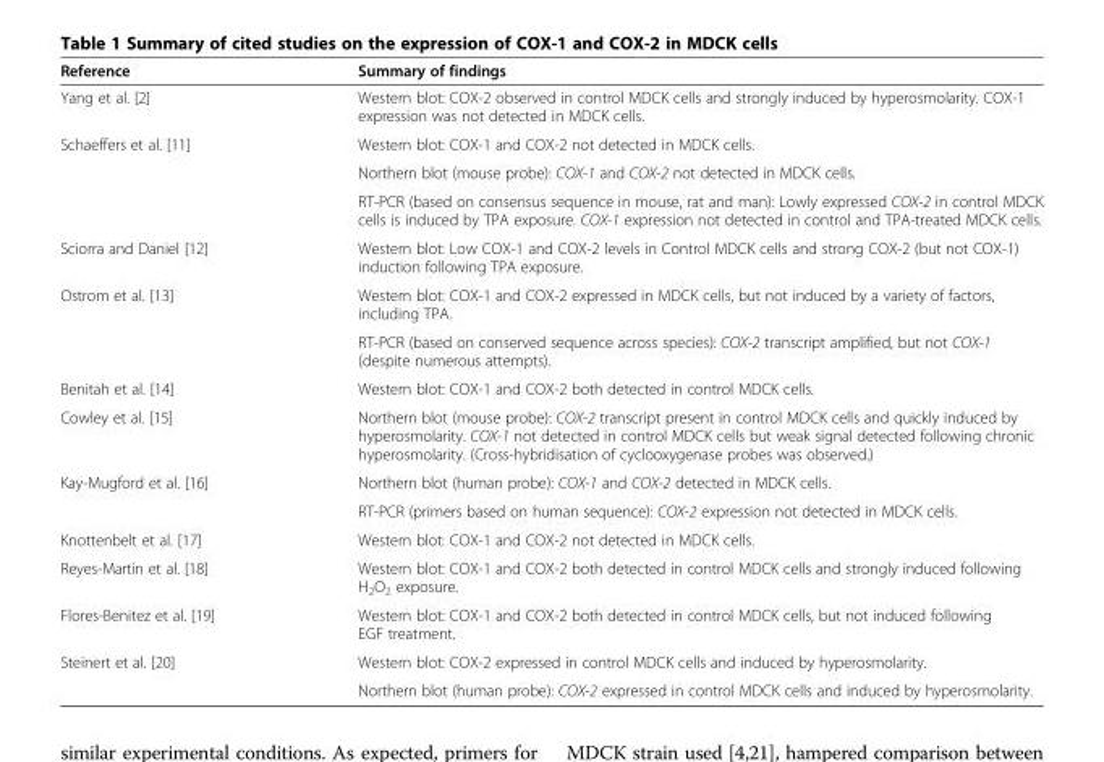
<table><thead><tr><td>Reference</td><td>Summary of findings</td></tr></thead><tbody><tr><td>Yang et al. [2]</td><td>Western blot: COX-2 observed in control MDCK cells and strongly induced by hyperosmolarity. COX-1 expression was not detected in MDCK cells.</td></tr><tr><td rowspan="3">Schaeffers et al. [11]</td><td>Western blot: COX-1 and COX-2 not detected in MDCK cells.</td></tr><tr><td>Northern blot (mouse probe): COX-1 and COX-2 not detected in MDCK cells.</td></tr><tr><td>RT-PCR (based on consensus sequence in mouse, rat and man): Lowly expressed COX-2 in control MDCK cells is induced by TPA exposure. COX-1 expression not detected in control and TPA-treated MDCK cells.</td></tr><tr><td>Sciorra and Daniel [12]</td><td>Western blot: Low COX-1 and COX-2 levels in Control MDCK cells and strong COX-2 (but not COX-1) induction following TPA exposure.</td></tr><tr><td rowspan="2">Ostrom et al. [13]</td><td>Western blot: COX-1 and COX-2 expressed in MDCK cells, but not induced by a variety of factors, including TPA.</td></tr><tr><td>RT-PCR (based on conserved sequence across species): COX-2 transcript amplified, but not COX-1 (despite numerous attempts).</td></tr><tr><td>Benitah et al. [14]</td><td>Western blot: COX-1 and COX-2 both detected in control MDCK cells.</td></tr><tr><td>Cowley et al. [15]</td><td>Northern blot (mouse probe): COX-2 transcript present in control MDCK cells and quickly induced by hyperosmolarity. COX-1 not detected in control MDCK cells but weak signal detected following chronic hyperosmolarity. (Cross-hybridisation of cyclooxygenase probes was observed.)</td></tr><tr><td rowspan="2">Kay-Mugford et al. [16]</td><td>Northern blot (human probe): COX-1 and COX-2 detected in MDCK cells.</td></tr><tr><td>RT-PCR (primers based on human sequence): COX-2 expression not detected in MDCK cells.</td></tr><tr><td>Knottenbelt et al. [17]</td><td>Western blot: COX-1 and COX-2 not detected in MDCK cells.</td></tr><tr><td>Reyes-Martin et al. [18]</td><td>Western blot: COX-1 and COX-2 both detected in control MDCK cells and strongly induced following H<sub>2</sub>O<sub>2</sub> exposure.</td></tr><tr><td>Flores-Benitez et al. [19]</td><td>Western blot: COX-1 and COX-2 both detected in control MDCK cells, but not induced following EGF treatment.</td></tr><tr><td rowspan="2">Steinert et al. [20]</td><td>Western blot: COX-2 expressed in control MDCK cells and induced by hyperosmolarity.</td></tr><tr><td>Northern blot (human probe): COX-2 expressed in control MDCK cells and induced by hyperosmolarity.</td></tr></tbody></table>